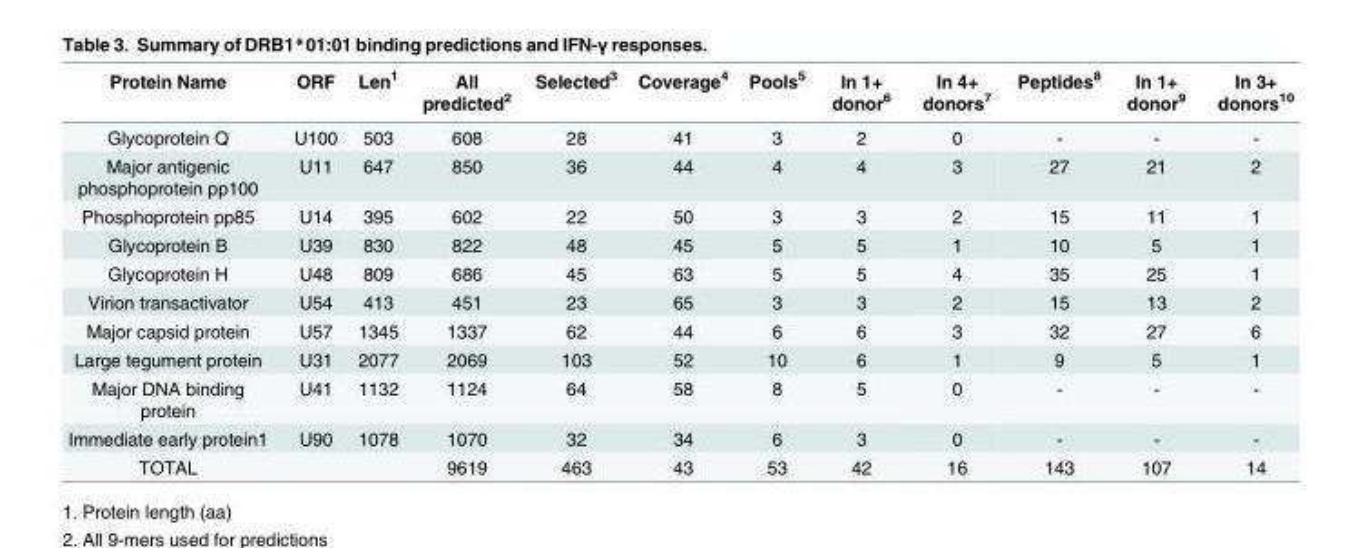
<table><thead><tr><td>Protein Name</td><td>ORF</td><td>Len<sup>1</sup></td><td>All predicted<sup>2</sup></td><td>Selected<sup>3</sup></td><td>Coverage<sup>4</sup></td><td>Pools<sup>5</sup></td><td>In 1+ donor<sup>6</sup></td><td>In 4+ donors<sup>7</sup></td><td>Peptides<sup>8</sup></td><td>In 1+ donor<sup>9</sup></td><td>In 3+ donors<sup>10</sup></td></tr></thead><tbody><tr><td>Glycoprotein Q</td><td>U100</td><td>503</td><td>608</td><td>28</td><td>41</td><td>3</td><td>2</td><td>0</td><td>-</td><td>-</td><td>-</td></tr><tr><td>Major antigenic phosphoprotein pp100</td><td>U11</td><td>647</td><td>850</td><td>36</td><td>44</td><td>4</td><td>4</td><td>3</td><td>27</td><td>21</td><td>2</td></tr><tr><td>Phosphoprotein pp85</td><td>U14</td><td>395</td><td>602</td><td>22</td><td>50</td><td>3</td><td>3</td><td>2</td><td>15</td><td>11</td><td>1</td></tr><tr><td>Glycoprotein B</td><td>U39</td><td>830</td><td>822</td><td>48</td><td>45</td><td>5</td><td>5</td><td>1</td><td>10</td><td>5</td><td>1</td></tr><tr><td>Glycoprotein H</td><td>U48</td><td>809</td><td>686</td><td>45</td><td>63</td><td>5</td><td>5</td><td>4</td><td>35</td><td>25</td><td>1</td></tr><tr><td>Virion transactivator</td><td>U54</td><td>413</td><td>451</td><td>23</td><td>65</td><td>3</td><td>3</td><td>2</td><td>15</td><td>13</td><td>2</td></tr><tr><td>Major capsid protein</td><td>U57</td><td>1345</td><td>1337</td><td>62</td><td>44</td><td>6</td><td>6</td><td>3</td><td>32</td><td>27</td><td>6</td></tr><tr><td>Large tegument protein</td><td>U31</td><td>2077</td><td>2069</td><td>103</td><td>52</td><td>10</td><td>6</td><td>1</td><td>9</td><td>5</td><td>1</td></tr><tr><td>Major DNA binding protein</td><td>U41</td><td>1132</td><td>1124</td><td>64</td><td>58</td><td>8</td><td>5</td><td>0</td><td>-</td><td>-</td><td>-</td></tr><tr><td>Immediate early protein1</td><td>U90</td><td>1078</td><td>1070</td><td>32</td><td>34</td><td>6</td><td>3</td><td>0</td><td>-</td><td>-</td><td>-</td></tr><tr><td>TOTAL</td><td></td><td></td><td>9619</td><td>463</td><td>43</td><td>53</td><td>42</td><td>16</td><td>143</td><td>107</td><td>14</td></tr></tbody></table>